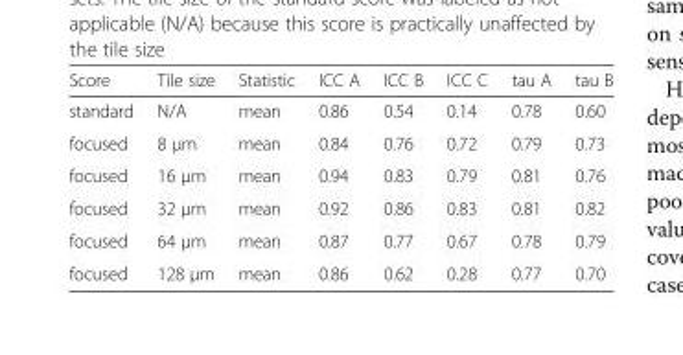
<table><thead><tr><td>Score</td><td>Tile size</td><td>Statistic</td><td>ICC A</td><td>ICC B</td><td>ICC C</td><td>tau A</td><td>tau B</td></tr></thead><tbody><tr><td>standard</td><td>N/A</td><td>mean</td><td>0.86</td><td>0.54</td><td>0.14</td><td>0.78</td><td>0.60</td></tr><tr><td>focused</td><td>8 μm</td><td>mean</td><td>0.84</td><td>0.76</td><td>0.72</td><td>0.79</td><td>0.73</td></tr><tr><td>focused</td><td>16 μm</td><td>mean</td><td>0.94</td><td>0.83</td><td>0.79</td><td>0.81</td><td>0.76</td></tr><tr><td>focused</td><td>32 μm</td><td>mean</td><td>0.92</td><td>0.86</td><td>0.83</td><td>0.81</td><td>0.82</td></tr><tr><td>focused</td><td>64 μm</td><td>mean</td><td>0.87</td><td>0.77</td><td>0.67</td><td>0.78</td><td>0.79</td></tr><tr><td>focused</td><td>128 μm</td><td>mean</td><td>0.86</td><td>0.62</td><td>0.28</td><td>0.77</td><td>0.70</td></tr></tbody></table>